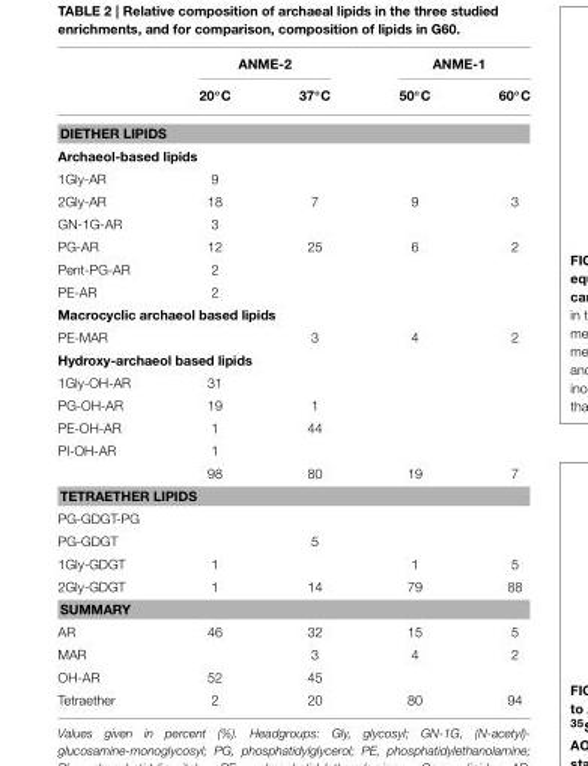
<table><thead><tr><td rowspan="2"></td><td colspan="2">ANME-2</td><td colspan="2">ANME-1</td></tr><tr><td>20◦C</td><td>37◦C</td><td>50◦C</td><td>60◦C</td></tr></thead><tbody><tr><td colspan="5">DIETHER LIPIDS</td></tr><tr><td colspan="5">Archaeol-based lipids</td></tr><tr><td>1Gly-AR</td><td>9</td><td></td><td></td><td></td></tr><tr><td>2Gly-AR</td><td>18</td><td>7</td><td>9</td><td>3</td></tr><tr><td>GN-1G-AR</td><td>3</td><td></td><td></td><td></td></tr><tr><td>PG-AR</td><td>12</td><td>25</td><td>6</td><td>2</td></tr><tr><td>Pent-PG-AR</td><td>2</td><td></td><td></td><td></td></tr><tr><td>PE-AR</td><td>2</td><td></td><td></td><td></td></tr><tr><td colspan="5">Macrocyclic archaeol based lipids</td></tr><tr><td>PE-MAR</td><td></td><td>3</td><td>4</td><td>2</td></tr><tr><td colspan="5">Hydroxy-archaeol based lipids</td></tr><tr><td>1Gly-OH-AR</td><td>31</td><td></td><td></td><td></td></tr><tr><td>PG-OH-AR</td><td>19</td><td>1</td><td></td><td></td></tr><tr><td>PE-OH-AR</td><td>1</td><td>44</td><td></td><td></td></tr><tr><td rowspan="2">PI-OH-AR</td><td>1</td><td></td><td></td><td></td></tr><tr><td>98</td><td>80</td><td>19</td><td>7</td></tr><tr><td colspan="5">TETRAETHER LIPIDS</td></tr><tr><td colspan="5">PG-GDGT-PG</td></tr><tr><td>PG-GDGT</td><td></td><td>5</td><td></td><td></td></tr><tr><td>1Gly-GDGT</td><td>1</td><td></td><td>1</td><td>5</td></tr><tr><td>2Gly-GDGT</td><td>1</td><td>14</td><td>79</td><td>88</td></tr><tr><td colspan="5">SUMMARY</td></tr><tr><td>AR</td><td>46</td><td>32</td><td>15</td><td>5</td></tr><tr><td>MAR</td><td></td><td>3</td><td>4</td><td>2</td></tr><tr><td>OH-AR</td><td>52</td><td>45</td><td></td><td></td></tr><tr><td>Tetraether</td><td>2</td><td>20</td><td>80</td><td>94</td></tr></tbody></table>